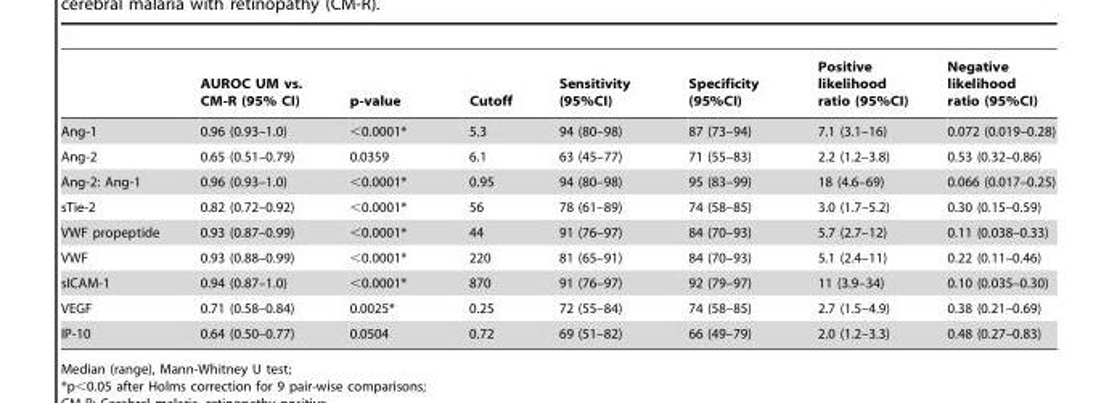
<table><thead><tr><td></td><td>AUROC UM vs. CM-R (95% CI)</td><td>p-value</td><td>Cutoff</td><td>Sensitivity (95%CI)</td><td>Specificity (95%CI)</td><td>Positive likelihood ratio (95%CI)</td><td>Negative likelihood ratio (95%CI)</td></tr></thead><tbody><tr><td>Ang-1</td><td>0.96 (0.93–1.0)</td><td>&lt;0.0001*</td><td>5.3</td><td>94 (80–98)</td><td>87 (73–94)</td><td>7.1 (3.1–16)</td><td>0.072 (0.019–0.28)</td></tr><tr><td>Ang-2</td><td>0.65 (0.51–0.79)</td><td>0.0359</td><td>6.1</td><td>63 (45–77)</td><td>71 (55–83)</td><td>2.2 (1.2–3.8)</td><td>0.53 (0.32–0.86)</td></tr><tr><td>Ang-2: Ang-1</td><td>0.96 (0.93–1.0)</td><td>&lt;0.0001*</td><td>0.95</td><td>94 (80–98)</td><td>95 (83–99)</td><td>18 (4.6–69)</td><td>0.066 (0.017–0.25)</td></tr><tr><td>sTie-2</td><td>0.82 (0.72–0.92)</td><td>&lt;0.0001*</td><td>56</td><td>78 (61–89)</td><td>74 (58–85)</td><td>3.0 (1.7–5.2)</td><td>0.30 (0.15–0.59)</td></tr><tr><td>VWF propeptide</td><td>0.93 (0.87–0.99)</td><td>&lt;0.0001*</td><td>44</td><td>91 (76–97)</td><td>84 (70–93)</td><td>5.7 (2.7–12)</td><td>0.11 (0.038–0.33)</td></tr><tr><td>VWF</td><td>0.93 (0.88–0.99)</td><td>&lt;0.0001*</td><td>220</td><td>81 (65–91)</td><td>84 (70–93)</td><td>5.1 (2.4–11)</td><td>0.22 (0.11–0.46)</td></tr><tr><td>sICAM-1</td><td>0.94 (0.87–1.0)</td><td>&lt;0.0001*</td><td>870</td><td>91 (76–97)</td><td>92 (79–97)</td><td>11 (3.9–34)</td><td>0.10 (0.035–0.30)</td></tr><tr><td>VEGF</td><td>0.71 (0.58–0.84)</td><td>0.0025*</td><td>0.25</td><td>72 (55–84)</td><td>74 (58–85)</td><td>2.7 (1.5–4.9)</td><td>0.38 (0.21–0.69)</td></tr><tr><td>IP-10</td><td>0.64 (0.50–0.77)</td><td>0.0504</td><td>0.72</td><td>69 (51–82)</td><td>66 (49–79)</td><td>2.0 (1.2–3.3)</td><td>0.48 (0.27–0.83)</td></tr></tbody></table>